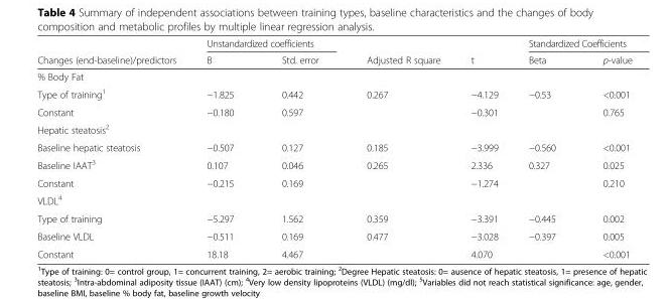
<table><thead><tr><td rowspan="2">Changes (end-baseline)/predictors</td><td colspan="2">Unstandardized coefficients</td><td rowspan="2">Adjusted R square</td><td rowspan="2">t</td><td colspan="2">Standardized Coefficients</td></tr><tr><td>B</td><td>Std. error</td><td>Beta</td><td>p-value</td></tr></thead><tbody><tr><td colspan="7">% Body Fat</td></tr><tr><td>Type of training<sup>1</sup></td><td>−1.825</td><td>0.442</td><td>0.267</td><td>−4.129</td><td>−0.53</td><td>&lt;0.001</td></tr><tr><td>Constant</td><td>−0.180</td><td>0.597</td><td></td><td>−0.301</td><td></td><td>0.765</td></tr><tr><td colspan="7">Hepatic steatosis<sup>2</sup></td></tr><tr><td>Baseline hepatic steatosis</td><td>−0.507</td><td>0.127</td><td>0.185</td><td>−3.999</td><td>−0.560</td><td>&lt;0.001</td></tr><tr><td>Baseline IAAT<sup>3</sup></td><td>0.107</td><td>0.046</td><td>0.265</td><td>2.336</td><td>0.327</td><td>0.025</td></tr><tr><td>Constant</td><td>−0.215</td><td>0.169</td><td></td><td>−1.274</td><td></td><td>0.210</td></tr><tr><td colspan="7">VLDL<sup>4</sup></td></tr><tr><td>Type of training</td><td>−5.297</td><td>1.562</td><td>0.359</td><td>−3.391</td><td>−0.445</td><td>0.002</td></tr><tr><td>Baseline VLDL</td><td>−0.511</td><td>0.169</td><td>0.477</td><td>−3.028</td><td>−0.397</td><td>0.005</td></tr><tr><td>Constant</td><td>18.18</td><td>4.467</td><td></td><td>4.070</td><td></td><td>&lt;0.001</td></tr></tbody></table>